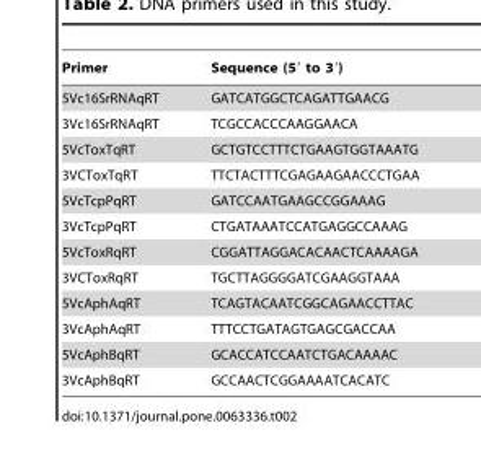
<table><thead><tr><td>Primer</td><td>Sequence (5′ to 3′)</td></tr></thead><tbody><tr><td>5Vc16SrRNAqRT</td><td>GATCATGGCTCAGATTGAACG</td></tr><tr><td>3Vc16SrRNAqRT</td><td>TCGCCACCCAAGGAACA</td></tr><tr><td>5VcToxTqRT</td><td>GCTGTCCTTTCTGAAGTGGTAAATG</td></tr><tr><td>3VCToxTqRT</td><td>TTCTACTTTCGAGAAGAACCCTGAA</td></tr><tr><td>5VcTcpPqRT</td><td>GATCCAATGAAGCCGGAAAG</td></tr><tr><td>3VcTcpPqRT</td><td>CTGATAAATCCATGAGGCCAAAG</td></tr><tr><td>5VcToxRqRT</td><td>CGGATTAGGACACAACTCAAAAGA</td></tr><tr><td>3VCToxRqRT</td><td>TGCTTAGGGGATCGAAGGTAAA</td></tr><tr><td>5VcAphAqRT</td><td>TCAGTACAATCGGCAGAACCTTAC</td></tr><tr><td>3VcAphAqRT</td><td>TTTCCTGATAGTGAGCGACCAA</td></tr><tr><td>5VcAphBqRT</td><td>GCACCATCCAATCTGACAAAAC</td></tr><tr><td>3VcAphBqRT</td><td>GCCAACTCGGAAAATCACATC</td></tr></tbody></table>